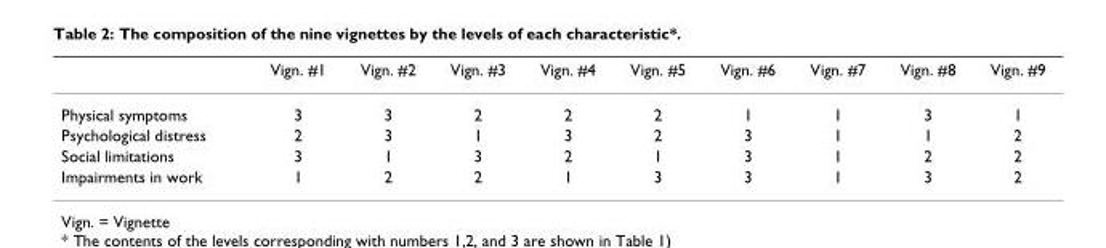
<table><thead><tr><td></td><td>Vign. #1</td><td>Vign. #2</td><td>Vign. #3</td><td>Vign. #4</td><td>Vign. #5</td><td>Vign. #6</td><td>Vign. #7</td><td>Vign. #8</td><td>Vign. #9</td></tr></thead><tbody><tr><td>Physical symptoms</td><td>3</td><td>3</td><td>2</td><td>2</td><td>2</td><td>1</td><td>1</td><td>3</td><td>1</td></tr><tr><td>Psychological distress</td><td>2</td><td>3</td><td>1</td><td>3</td><td>2</td><td>3</td><td>1</td><td>1</td><td>2</td></tr><tr><td>Social limitations</td><td>3</td><td>1</td><td>3</td><td>2</td><td>1</td><td>3</td><td>1</td><td>2</td><td>2</td></tr><tr><td>Impairments in work</td><td>1</td><td>2</td><td>2</td><td>1</td><td>3</td><td>3</td><td>1</td><td>3</td><td>2</td></tr></tbody></table>